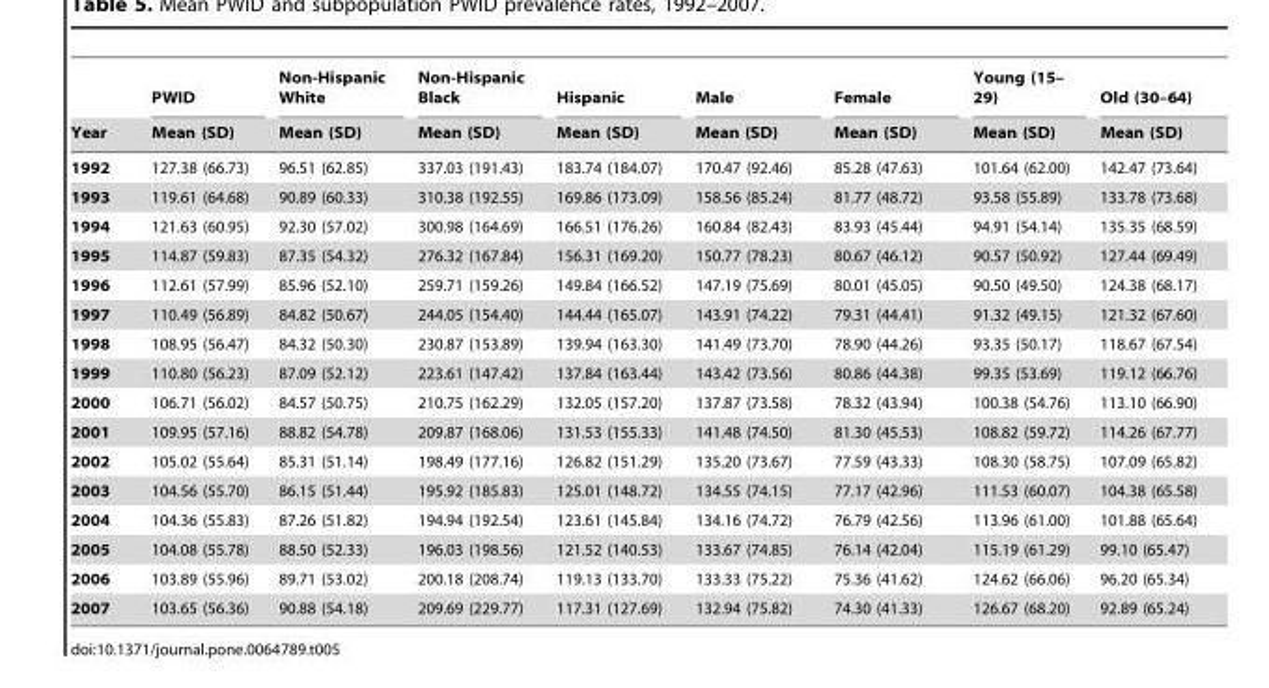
<table><thead><tr><td rowspan="2">Year</td><td rowspan="2">PWID Mean (SD)</td><td rowspan="2">Non-Hispanic White Mean (SD)</td><td rowspan="2">Non-Hispanic Black Mean (SD)</td><td rowspan="2">Hispanic Mean (SD)</td><td rowspan="2">Male Mean (SD)</td><td rowspan="2">Female Mean (SD)</td><td rowspan="2">Young (15– 29) Mean (SD)</td><td rowspan="2">Old (30–64) Mean (SD)</td></tr><tr></tr></thead><tbody><tr><td>1992</td><td>127.38 (66.73)</td><td>96.51 (62.85)</td><td>337.03 (191.43)</td><td>183.74 (184.07)</td><td>170.47 (92.46)</td><td>85.28 (47.63)</td><td>101.64 (62.00)</td><td>142.47 (73.64)</td></tr><tr><td>1993</td><td>119.61 (64.68)</td><td>90.89 (60.33)</td><td>310.38 (192.55)</td><td>169.86 (173.09)</td><td>158.56 (85.24)</td><td>81.77 (48.72)</td><td>93.58 (55.89)</td><td>133.78 (73.68)</td></tr><tr><td>1994</td><td>121.63 (60.95)</td><td>92.30 (57.02)</td><td>300.98 (164.69)</td><td>166.51 (176.26)</td><td>160.84 (82.43)</td><td>83.93 (45.44)</td><td>94.91 (54.14)</td><td>135.35 (68.59)</td></tr><tr><td>1995</td><td>114.87 (59.83)</td><td>87.35 (54.32)</td><td>276.32 (167.84)</td><td>156.31 (169.20)</td><td>150.77 (78.23)</td><td>80.67 (46.12)</td><td>90.57 (50.92)</td><td>127.44 (69.49)</td></tr><tr><td>1996</td><td>112.61 (57.99)</td><td>85.96 (52.10)</td><td>259.71 (159.26)</td><td>149.84 (166.52)</td><td>147.19 (75.69)</td><td>80.01 (45.05)</td><td>90.50 (49.50)</td><td>124.38 (68.17)</td></tr><tr><td>1997</td><td>110.49 (56.89)</td><td>84.82 (50.67)</td><td>244.05 (154.40)</td><td>144.44 (165.07)</td><td>143.91 (74.22)</td><td>79.31 (44.41)</td><td>91.32 (49.15)</td><td>121.32 (67.60)</td></tr><tr><td>1998</td><td>108.95 (56.47)</td><td>84.32 (50.30)</td><td>230.87 (153.89)</td><td>139.94 (163.30)</td><td>141.49 (73.70)</td><td>78.90 (44.26)</td><td>93.35 (50.17)</td><td>118.67 (67.54)</td></tr><tr><td>1999</td><td>110.80 (56.23)</td><td>87.09 (52.12)</td><td>223.61 (147.42)</td><td>137.84 (163.44)</td><td>143.42 (73.56)</td><td>80.86 (44.38)</td><td>99.35 (53.69)</td><td>119.12 (66.76)</td></tr><tr><td>2000</td><td>106.71 (56.02)</td><td>84.57 (50.75)</td><td>210.75 (162.29)</td><td>132.05 (157.20)</td><td>137.87 (73.58)</td><td>78.32 (43.94)</td><td>100.38 (54.76)</td><td>113.10 (66.90)</td></tr><tr><td>2001</td><td>109.95 (57.16)</td><td>88.82 (54.78)</td><td>209.87 (168.06)</td><td>131.53 (155.33)</td><td>141.48 (74.50)</td><td>81.30 (45.53)</td><td>108.82 (59.72)</td><td>114.26 (67.77)</td></tr><tr><td>2002</td><td>105.02 (55.64)</td><td>85.31 (51.14)</td><td>198.49 (177.16)</td><td>126.82 (151.29)</td><td>135.20 (73.67)</td><td>77.59 (43.33)</td><td>108.30 (58.75)</td><td>107.09 (65.82)</td></tr><tr><td>2003</td><td>104.56 (55.70)</td><td>86.15 (51.44)</td><td>195.92 (185.83)</td><td>125.01 (148.72)</td><td>134.55 (74.15)</td><td>77.17 (42.96)</td><td>111.53 (60.07)</td><td>104.38 (65.58)</td></tr><tr><td>2004</td><td>104.36 (55.83)</td><td>87.26 (51.82)</td><td>194.94 (192.54)</td><td>123.61 (145.84)</td><td>134.16 (74.72)</td><td>76.79 (42.56)</td><td>113.96 (61.00)</td><td>101.88 (65.64)</td></tr><tr><td>2005</td><td>104.08 (55.78)</td><td>88.50 (52.33)</td><td>196.03 (198.56)</td><td>121.52 (140.53)</td><td>133.67 (74.85)</td><td>76.14 (42.04)</td><td>115.19 (61.29)</td><td>99.10 (65.47)</td></tr><tr><td>2006</td><td>103.89 (55.96)</td><td>89.71 (53.02)</td><td>200.18 (208.74)</td><td>119.13 (133.70)</td><td>133.33 (75.22)</td><td>75.36 (41.62)</td><td>124.62 (66.06)</td><td>96.20 (65.34)</td></tr><tr><td>2007</td><td>103.65 (56.36)</td><td>90.88 (54.18)</td><td>209.69 (229.77)</td><td>117.31 (127.69)</td><td>132.94 (75.82)</td><td>74.30 (41.33)</td><td>126.67 (68.20)</td><td>92.89 (65.24)</td></tr></tbody></table>